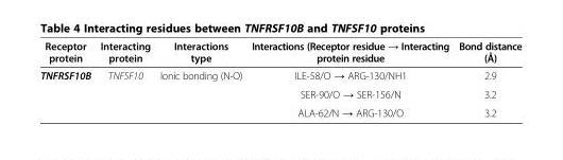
<table><thead><tr><td>Receptor protein</td><td>Interacting protein</td><td>Interactions type</td><td>Interactions (Receptor residue → Interacting protein residue</td><td>Bond distance (Å)</td></tr></thead><tbody><tr><td rowspan="3">TNFRSF10B</td><td rowspan="3">TNFSF10</td><td rowspan="3">Ionic bonding (N-O)</td><td>ILE-58/O → ARG-130/NH1</td><td>2.9</td></tr><tr><td>SER-90/O → SER-156/N</td><td>3.2</td></tr><tr><td>ALA-62/N → ARG-130/O</td><td>3.2</td></tr></tbody></table>